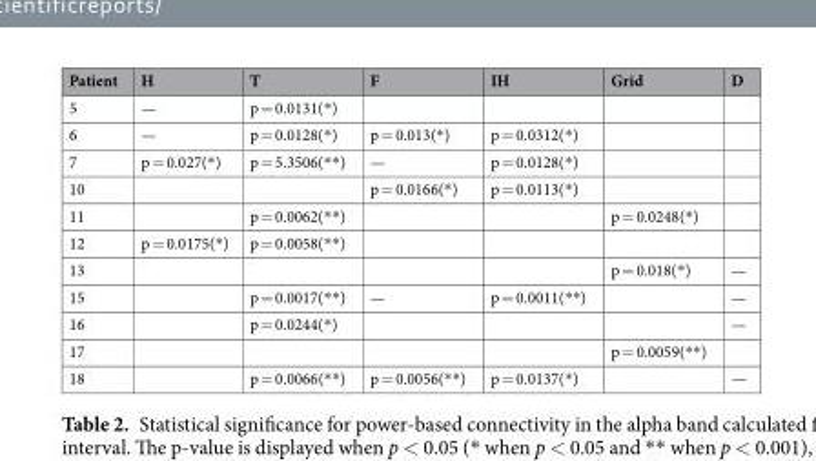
<table><thead><tr><td>Patient</td><td>H</td><td>T</td><td>F</td><td>IH</td><td>Grid</td><td>D</td></tr></thead><tbody><tr><td>5</td><td>—</td><td>p = 0.0131(*)</td><td></td><td></td><td></td><td></td></tr><tr><td>6</td><td>—</td><td>p = 0.0128(*)</td><td>p = 0.013(*)</td><td>p = 0.0312(*)</td><td></td><td></td></tr><tr><td>7</td><td>p = 0.027(*)</td><td>p = 5.3506(**)</td><td>—</td><td>p = 0.0128(*)</td><td></td><td></td></tr><tr><td>10</td><td></td><td></td><td>p = 0.0166(*)</td><td>p = 0.0113(*)</td><td></td><td></td></tr><tr><td>11</td><td></td><td>p = 0.0062(**)</td><td></td><td></td><td>p = 0.0248(*)</td><td></td></tr><tr><td>12</td><td>p = 0.0175(*)</td><td>p = 0.0058(**)</td><td></td><td></td><td></td><td></td></tr><tr><td>13</td><td></td><td></td><td></td><td></td><td>p = 0.018(*)</td><td>—</td></tr><tr><td>15</td><td></td><td>p = 0.0017(**)</td><td>—</td><td>p = 0.0011(**)</td><td></td><td>—</td></tr><tr><td>16</td><td></td><td>p = 0.0244(*)</td><td></td><td></td><td></td><td>—</td></tr><tr><td>17</td><td></td><td></td><td></td><td></td><td>p = 0.0059(**)</td><td></td></tr><tr><td>18</td><td></td><td>p = 0.0066(**)</td><td>p = 0.0056(**)</td><td>p = 0.0137(*)</td><td></td><td>—</td></tr></tbody></table>